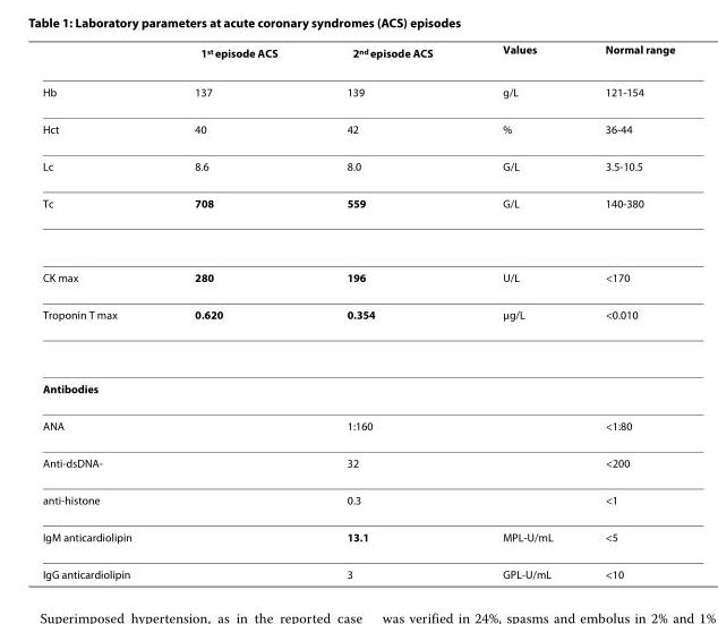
<table><thead><tr><td></td><td>1st episode ACS</td><td>2nd episode ACS</td><td>Values</td><td>Normal range</td></tr></thead><tbody><tr><td>Hb</td><td>137</td><td>139</td><td>g/L</td><td>121-154</td></tr><tr><td>Hct</td><td>40</td><td>42</td><td>%</td><td>36-44</td></tr><tr><td>Lc</td><td>8.6</td><td>8.0</td><td>G/L</td><td>3.5-10.5</td></tr><tr><td>Tc</td><td>708</td><td>559</td><td>G/L</td><td>140-380</td></tr><tr><td>CK max</td><td>280</td><td>196</td><td>U/L</td><td>&lt;170</td></tr><tr><td>Troponin T max</td><td>0.620</td><td>0.354</td><td>μg/L</td><td>&lt;0.010</td></tr><tr><td colspan="5">Antibodies</td></tr><tr><td>ANA</td><td></td><td>1:160</td><td></td><td>&lt;1:80</td></tr><tr><td>Anti-dsDNA-</td><td></td><td>32</td><td></td><td>&lt;200</td></tr><tr><td>anti-histone</td><td></td><td>0.3</td><td></td><td>&lt;1</td></tr><tr><td>IgM anticardiolipin</td><td></td><td>13.1</td><td>MPL-U/mL</td><td>&lt;5</td></tr><tr><td>IgG anticardiolipin</td><td></td><td>3</td><td>GPL-U/mL</td><td>&lt;10</td></tr></tbody></table>